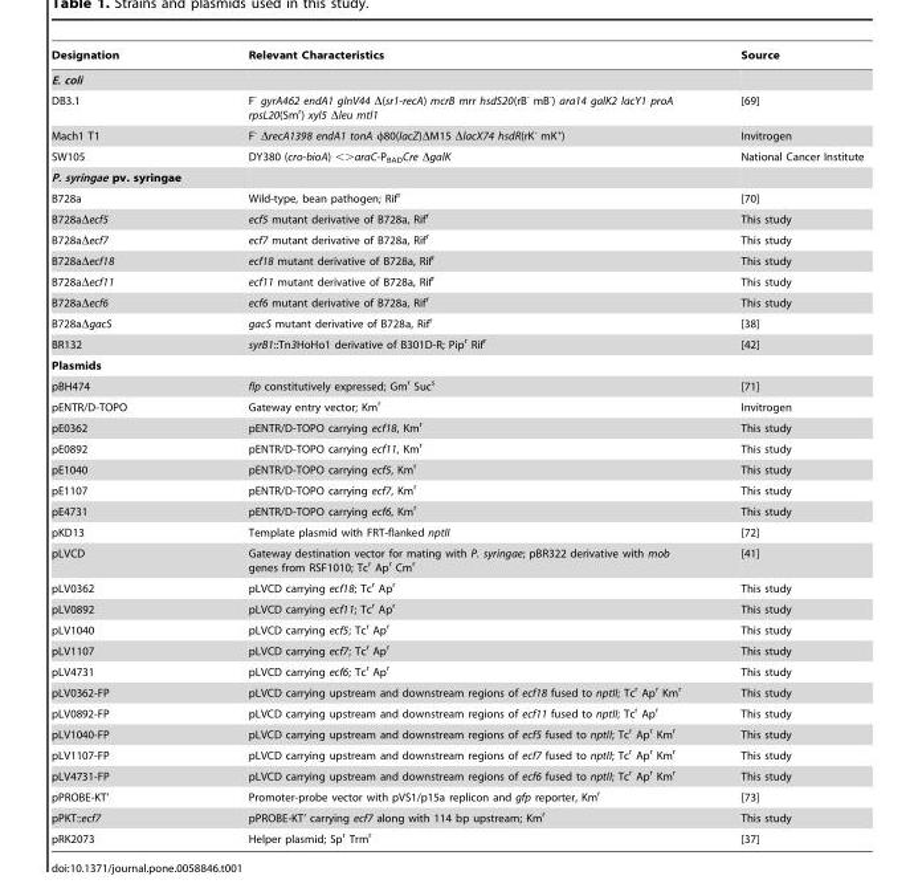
<table><thead><tr><td>Designation</td><td>Relevant Characteristics</td><td>Source</td></tr></thead><tbody><tr><td colspan="3">E. coli</td></tr><tr><td>DB3.1</td><td>F<sup>-</sup> gyrA462 endA1 glnV44 Δ(sr1-recA) mcrB mrr hsdS20(rB<sup>-</sup> mB<sup>-</sup>) ara14 galK2 lacY1 proA rpsL20(Sm<sup>r</sup>) xyl5 Δleu mtl1</td><td>[69]</td></tr><tr><td>Mach1 T1</td><td>F<sup>-</sup> ΔrecA1398 endA1 tonA φ80(lacZ)ΔM15 ΔlacX74 hsdR(rK<sup>-</sup> mK<sup>+</sup>)</td><td>Invitrogen</td></tr><tr><td>SW105</td><td>DY380 (cro-bioA) &lt;&gt;araC-P<sub>BAD</sub>Cre ΔgalK</td><td>National Cancer Institute</td></tr><tr><td colspan="3">P. syringae pv. syringae</td></tr><tr><td>B728a</td><td>Wild-type, bean pathogen; Rif<sup>r</sup></td><td>[70]</td></tr><tr><td>B728aΔecf5</td><td>ecf5 mutant derivative of B728a, Rif<sup>r</sup></td><td>This study</td></tr><tr><td>B728aΔecf7</td><td>ecf7 mutant derivative of B728a, Rif<sup>r</sup></td><td>This study</td></tr><tr><td>B728aΔecf18</td><td>ecf18 mutant derivative of B728a, Rif<sup>r</sup></td><td>This study</td></tr><tr><td>B728aΔecf11</td><td>ecf11 mutant derivative of B728a, Rif<sup>r</sup></td><td>This study</td></tr><tr><td>B728aΔecf6</td><td>ecf6 mutant derivative of B728a, Rif<sup>r</sup></td><td>This study</td></tr><tr><td>B728aΔgacS</td><td>gacS mutant derivative of B728a, Rif<sup>r</sup></td><td>[38]</td></tr><tr><td>BR132</td><td>syrB1::Tn3HoHo1 derivative of B301D-R; Pip<sup>r</sup> Rif<sup>r</sup></td><td>[42]</td></tr><tr><td colspan="3">Plasmids</td></tr><tr><td>pBH474</td><td>flp constitutively expressed; Gm<sup>r</sup> Suc<sup>s</sup></td><td>[71]</td></tr><tr><td>pENTR/D-TOPO</td><td>Gateway entry vector; Km<sup>r</sup></td><td>Invitrogen</td></tr><tr><td>pE0362</td><td>pENTR/D-TOPO carrying ecf18, Km<sup>r</sup></td><td>This study</td></tr><tr><td>pE0892</td><td>pENTR/D-TOPO carrying ecf11, Km<sup>r</sup></td><td>This study</td></tr><tr><td>pE1040</td><td>pENTR/D-TOPO carrying ecf5, Km<sup>r</sup></td><td>This study</td></tr><tr><td>pE1107</td><td>pENTR/D-TOPO carrying ecf7, Km<sup>r</sup></td><td>This study</td></tr><tr><td>pE4731</td><td>pENTR/D-TOPO carrying ecf6, Km<sup>r</sup></td><td>This study</td></tr><tr><td>pKD13</td><td>Template plasmid with FRT-flanked nptII</td><td>[72]</td></tr><tr><td>pLVCD</td><td>Gateway destination vector for mating with P. syringae; pBR322 derivative with mob genes from RSF1010; Tc<sup>r</sup> Ap<sup>r</sup> Cm<sup>r</sup></td><td>[41]</td></tr><tr><td>pLV0362</td><td>pLVCD carrying ecf18; Tc<sup>r</sup> Ap<sup>r</sup></td><td>This study</td></tr><tr><td>pLV0892</td><td>pLVCD carrying ecf11; Tc<sup>r</sup> Ap<sup>r</sup></td><td>This study</td></tr><tr><td>pLV1040</td><td>pLVCD carrying ecf5; Tc<sup>r</sup> Ap<sup>r</sup></td><td>This study</td></tr><tr><td>pLV1107</td><td>pLVCD carrying ecf7; Tc<sup>r</sup> Ap<sup>r</sup></td><td>This study</td></tr><tr><td>pLV4731</td><td>pLVCD carrying ecf6; Tc<sup>r</sup> Ap<sup>r</sup></td><td>This study</td></tr><tr><td>pLV0362-FP</td><td>pLVCD carrying upstream and downstream regions of ecf18 fused to nptII; Tc<sup>r</sup> Ap<sup>r</sup> Km<sup>r</sup></td><td>This study</td></tr><tr><td>pLV0892-FP</td><td>pLVCD carrying upstream and downstream regions of ecf11 fused to nptII; Tc<sup>r</sup> Ap<sup>r</sup></td><td>This study</td></tr><tr><td>pLV1040-FP</td><td>pLVCD carrying upstream and downstream regions of ecf5 fused to nptII; Tc<sup>r</sup> Ap<sup>r</sup> Km<sup>r</sup></td><td>This study</td></tr><tr><td>pLV1107-FP</td><td>pLVCD carrying upstream and downstream regions of ecf7 fused to nptII; Tc<sup>r</sup> Ap<sup>r</sup> Km<sup>r</sup></td><td>This study</td></tr><tr><td>pLV4731-FP</td><td>pLVCD carrying upstream and downstream regions of ecf6 fused to nptII; Tc<sup>r</sup> Ap<sup>r</sup> Km<sup>r</sup></td><td>This study</td></tr><tr><td>pPROBE-KT’</td><td>Promoter-probe vector with pVS1/p15a replicon and gfp reporter, Km<sup>r</sup></td><td>[73]</td></tr><tr><td>pPKT::ecf7</td><td>pPROBE-KT’ carrying ecf7 along with 114 bp upstream; Km<sup>r</sup></td><td>This study</td></tr><tr><td>pRK2073</td><td>Helper plasmid; Sp<sup>r</sup> Trm<sup>r</sup></td><td>[37]</td></tr></tbody></table>